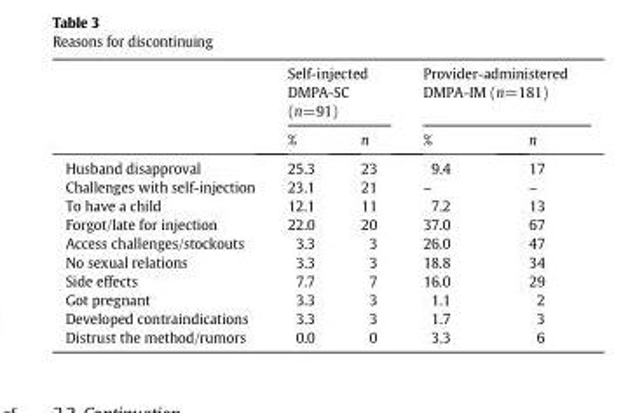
<table><thead><tr><td rowspan="2"></td><td colspan="2">Self-injected DMPA-SC (n=91)</td><td colspan="2">Provider-administered DMPA-IM (n=181)</td></tr><tr><td>%</td><td>n</td><td>%</td><td>n</td></tr></thead><tbody><tr><td>Husband disapproval</td><td>25.3</td><td>23</td><td>9.4</td><td>17</td></tr><tr><td>Challenges with self-injection</td><td>23.1</td><td>21</td><td>–</td><td>–</td></tr><tr><td>To have a child</td><td>12.1</td><td>11</td><td>7.2</td><td>13</td></tr><tr><td>Forgot/late for injection</td><td>22.0</td><td>20</td><td>37.0</td><td>67</td></tr><tr><td>Access challenges/stockouts</td><td>3.3</td><td>3</td><td>26.0</td><td>47</td></tr><tr><td>No sexual relations</td><td>3.3</td><td>3</td><td>18.8</td><td>34</td></tr><tr><td>Side effects</td><td>7.7</td><td>7</td><td>16.0</td><td>29</td></tr><tr><td>Got pregnant</td><td>3.3</td><td>3</td><td>1.1</td><td>2</td></tr><tr><td>Developed contraindications</td><td>3.3</td><td>3</td><td>1.7</td><td>3</td></tr><tr><td>Distrust the method/rumors</td><td>0.0</td><td>0</td><td>3.3</td><td>6</td></tr></tbody></table>